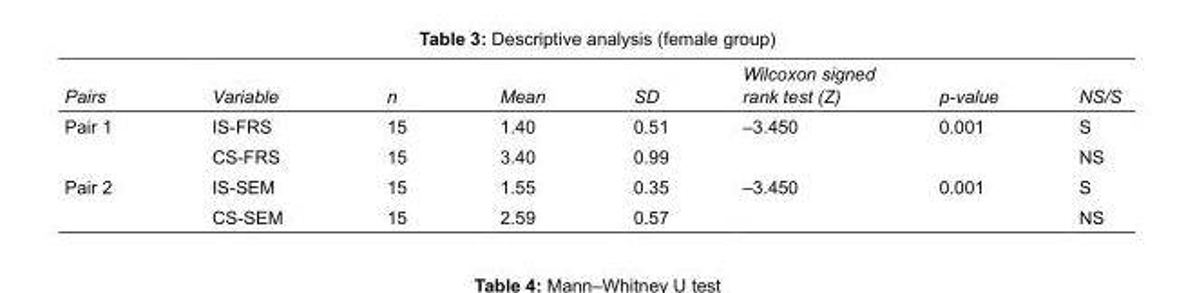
<table><tbody><tr><td>Pairs</td><td>Variable</td><td>n</td><td>Mean</td><td>SD</td><td>Wilcoxon signed rank test (Z)</td><td>p-value</td><td>NS/S</td></tr><tr><td rowspan="2">Pair 1</td><td>IS-FRS</td><td>15</td><td>1.40</td><td>0.51</td><td>–3.450</td><td>0.001</td><td>S</td></tr><tr><td>CS-FRS</td><td>15</td><td>3.40</td><td>0.99</td><td></td><td></td><td>NS</td></tr><tr><td rowspan="2">Pair 2</td><td>IS-SEM</td><td>15</td><td>1.55</td><td>0.35</td><td>–3.450</td><td>0.001</td><td>S</td></tr><tr><td>CS-SEM</td><td>15</td><td>2.59</td><td>0.57</td><td></td><td></td><td>NS</td></tr></tbody></table>